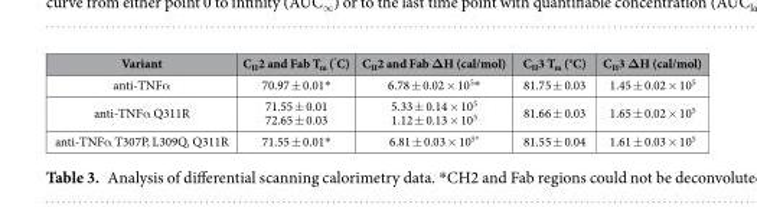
<table><thead><tr><td>Variant</td><td>C<sub>H</sub>2 and Fab T<sub>m</sub> (<sup>°</sup>C)</td><td>C<sub>H</sub>2 and Fab ΔH (cal/mol)</td><td>C<sub>H</sub>3 T<sub>m</sub> (°C)</td><td>C<sub>H</sub>3 ΔH (cal/mol)</td></tr></thead><tbody><tr><td>anti-TNFα</td><td>70.97 ± 0.01*</td><td>6.78 ± 0.02 × 10<sup>5</sup>*</td><td>81.75 ± 0.03</td><td>1.45 ± 0.02 × 10<sup>5</sup></td></tr><tr><td>anti-TNFα Q311R</td><td>71.55 ± 0.01 72.65 ± 0.03</td><td>5.33 ± 0.14 × 10<sup>5</sup> 1.12 ± 0.13 × 10<sup>5</sup></td><td>81.66 ± 0.03</td><td>1.65 ± 0.02 × 10<sup>5</sup></td></tr><tr><td>anti-TNFα T307P, L309Q, Q311R</td><td>71.55 ± 0.01*</td><td>6.81 ± 0.03 × 10<sup>5*</sup></td><td>81.55 ± 0.04</td><td>1.61 ± 0.03 × 10<sup>5</sup></td></tr></tbody></table>